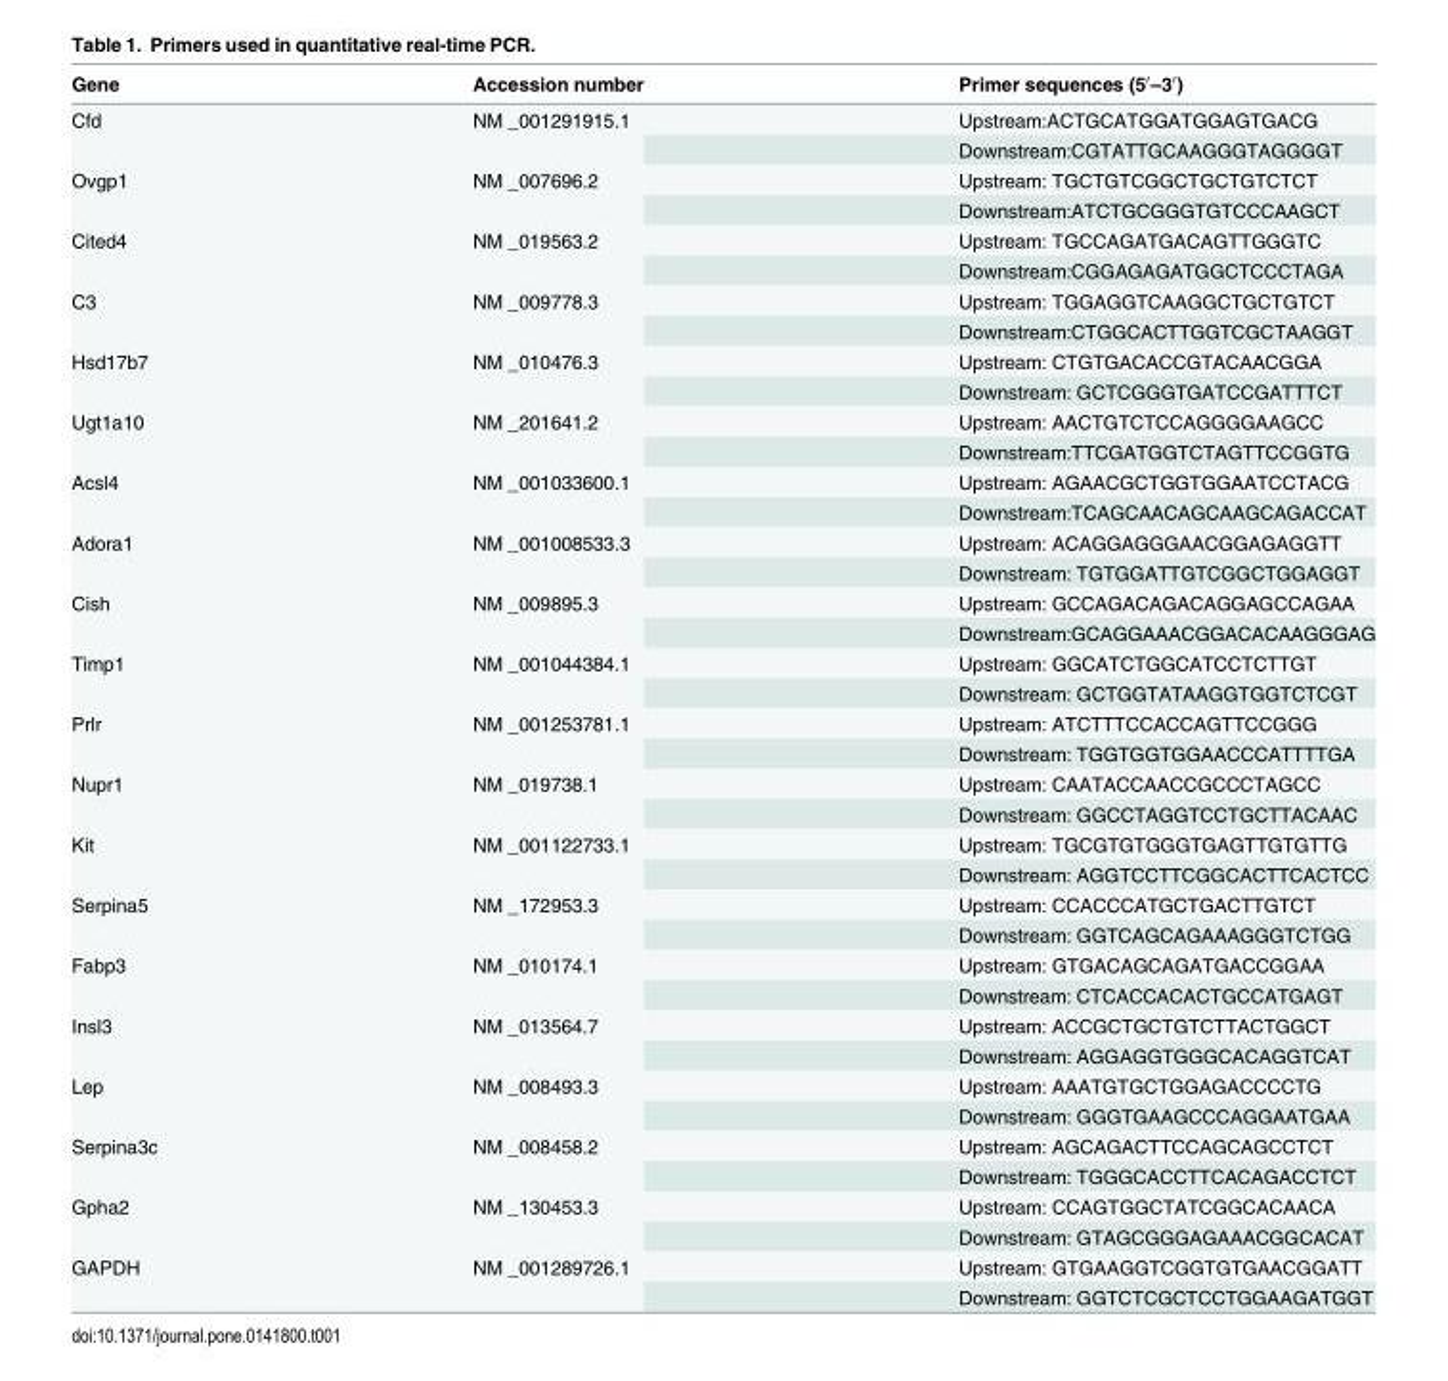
<table><thead><tr><td>Gene</td><td>Accession number</td><td>Primer sequences (5′–3′)</td></tr></thead><tbody><tr><td rowspan="2">Cfd</td><td rowspan="2">NM _001291915.1</td><td>Upstream:ACTGCATGGATGGAGTGACG</td></tr><tr><td>Downstream:CGTATTGCAAGGGTAGGGGT</td></tr><tr><td rowspan="2">Ovgp1</td><td rowspan="2">NM _007696.2</td><td>Upstream: TGCTGTCGGCTGCTGTCTCT</td></tr><tr><td>Downstream:ATCTGCGGGTGTCCCAAGCT</td></tr><tr><td rowspan="2">Cited4</td><td rowspan="2">NM _019563.2</td><td>Upstream: TGCCAGATGACAGTTGGGTC</td></tr><tr><td>Downstream:CGGAGAGATGGCTCCCTAGA</td></tr><tr><td rowspan="2">C3</td><td rowspan="2">NM _009778.3</td><td>Upstream: TGGAGGTCAAGGCTGCTGTCT</td></tr><tr><td>Downstream:CTGGCACTTGGTCGCTAAGGT</td></tr><tr><td rowspan="2">Hsd17b7</td><td rowspan="2">NM _010476.3</td><td>Upstream: CTGTGACACCGTACAACGGA</td></tr><tr><td>Downstream: GCTCGGGTGATCCGATTTCT</td></tr><tr><td rowspan="2">Ugt1a10</td><td rowspan="2">NM _201641.2</td><td>Upstream: AACTGTCTCCAGGGGAAGCC</td></tr><tr><td>Downstream:TTCGATGGTCTAGTTCCGGTG</td></tr><tr><td rowspan="2">Acsl4</td><td rowspan="2">NM _001033600.1</td><td>Upstream: AGAACGCTGGTGGAATCCTACG</td></tr><tr><td>Downstream:TCAGCAACAGCAAGCAGACCAT</td></tr><tr><td rowspan="2">Adora1</td><td rowspan="2">NM _001008533.3</td><td>Upstream: ACAGGAGGGAACGGAGAGGTT</td></tr><tr><td>Downstream: TGTGGATTGTCGGCTGGAGGT</td></tr><tr><td rowspan="2">Cish</td><td rowspan="2">NM _009895.3</td><td>Upstream: GCCAGACAGACAGGAGCCAGAA</td></tr><tr><td>Downstream:GCAGGAAACGGACACAAGGGAG</td></tr><tr><td rowspan="2">Timp1</td><td rowspan="2">NM _001044384.1</td><td>Upstream: GGCATCTGGCATCCTCTTGT</td></tr><tr><td>Downstream: GCTGGTATAAGGTGGTCTCGT</td></tr><tr><td rowspan="2">Prlr</td><td rowspan="2">NM _001253781.1</td><td>Upstream: ATCTTTCCACCAGTTCCGGG</td></tr><tr><td>Downstream: TGGTGGTGGAACCCATTTTGA</td></tr><tr><td rowspan="2">Nupr1</td><td rowspan="2">NM _019738.1</td><td>Upstream: CAATACCAACCGCCCTAGCC</td></tr><tr><td>Downstream: GGCCTAGGTCCTGCTTACAAC</td></tr><tr><td rowspan="2">Kit</td><td rowspan="2">NM _001122733.1</td><td>Upstream: TGCGTGTGGGTGAGTTGTGTTG</td></tr><tr><td>Downstream: AGGTCCTTCGGCACTTCACTCC</td></tr><tr><td rowspan="2">Serpina5</td><td rowspan="2">NM _172953.3</td><td>Upstream: CCACCCATGCTGACTTGTCT</td></tr><tr><td>Downstream: GGTCAGCAGAAAGGGTCTGG</td></tr><tr><td rowspan="2">Fabp3</td><td rowspan="2">NM _010174.1</td><td>Upstream: GTGACAGCAGATGACCGGAA</td></tr><tr><td>Downstream: CTCACCACACTGCCATGAGT</td></tr><tr><td rowspan="2">Insl3</td><td rowspan="2">NM _013564.7</td><td>Upstream: ACCGCTGCTGTCTTACTGGCT</td></tr><tr><td>Downstream: AGGAGGTGGGCACAGGTCAT</td></tr><tr><td rowspan="2">Lep</td><td rowspan="2">NM _008493.3</td><td>Upstream: AAATGTGCTGGAGACCCCTG</td></tr><tr><td>Downstream: GGGTGAAGCCCAGGAATGAA</td></tr><tr><td rowspan="2">Serpina3c</td><td rowspan="2">NM _008458.2</td><td>Upstream: AGCAGACTTCCAGCAGCCTCT</td></tr><tr><td>Downstream: TGGGCACCTTCACAGACCTCT</td></tr><tr><td rowspan="2">Gpha2</td><td rowspan="2">NM _130453.3</td><td>Upstream: CCAGTGGCTATCGGCACAACA</td></tr><tr><td>Downstream: GTAGCGGGAGAAACGGCACAT</td></tr><tr><td rowspan="2">GAPDH</td><td rowspan="2">NM _001289726.1</td><td>Upstream: GTGAAGGTCGGTGTGAACGGATT</td></tr><tr><td>Downstream: GGTCTCGCTCCTGGAAGATGGT</td></tr></tbody></table>